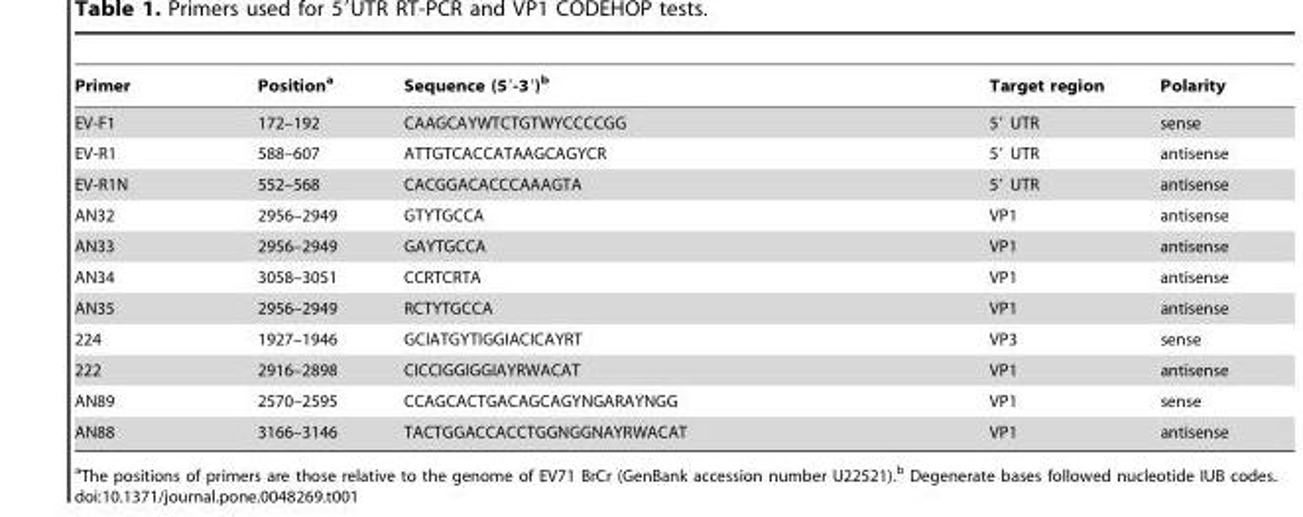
<table><thead><tr><td>Primer</td><td>Position<sup>a</sup></td><td>Sequence (5′-3′)<sup>b</sup></td><td>Target region</td><td>Polarity</td></tr></thead><tbody><tr><td>EV-F1</td><td>172–192</td><td>CAAGCAYWTCTGTWYCCCCGG</td><td>5′ UTR</td><td>sense</td></tr><tr><td>EV-R1</td><td>588–607</td><td>ATTGTCACCATAAGCAGYCR</td><td>5′ UTR</td><td>antisense</td></tr><tr><td>EV-R1N</td><td>552–568</td><td>CACGGACACCCAAAGTA</td><td>5′ UTR</td><td>antisense</td></tr><tr><td>AN32</td><td>2956–2949</td><td>GTYTGCCA</td><td>VP1</td><td>antisense</td></tr><tr><td>AN33</td><td>2956–2949</td><td>GAYTGCCA</td><td>VP1</td><td>antisense</td></tr><tr><td>AN34</td><td>3058–3051</td><td>CCRTCRTA</td><td>VP1</td><td>antisense</td></tr><tr><td>AN35</td><td>2956–2949</td><td>RCTYTGCCA</td><td>VP1</td><td>antisense</td></tr><tr><td>224</td><td>1927–1946</td><td>GCIATGYTIGGIACICAYRT</td><td>VP3</td><td>sense</td></tr><tr><td>222</td><td>2916–2898</td><td>CICCIGGIGGIAYRWACAT</td><td>VP1</td><td>antisense</td></tr><tr><td>AN89</td><td>2570–2595</td><td>CCAGCACTGACAGCAGYNGARAYNGG</td><td>VP1</td><td>sense</td></tr><tr><td>AN88</td><td>3166–3146</td><td>TACTGGACCACCTGGNGGNAYRWACAT</td><td>VP1</td><td>antisense</td></tr></tbody></table>